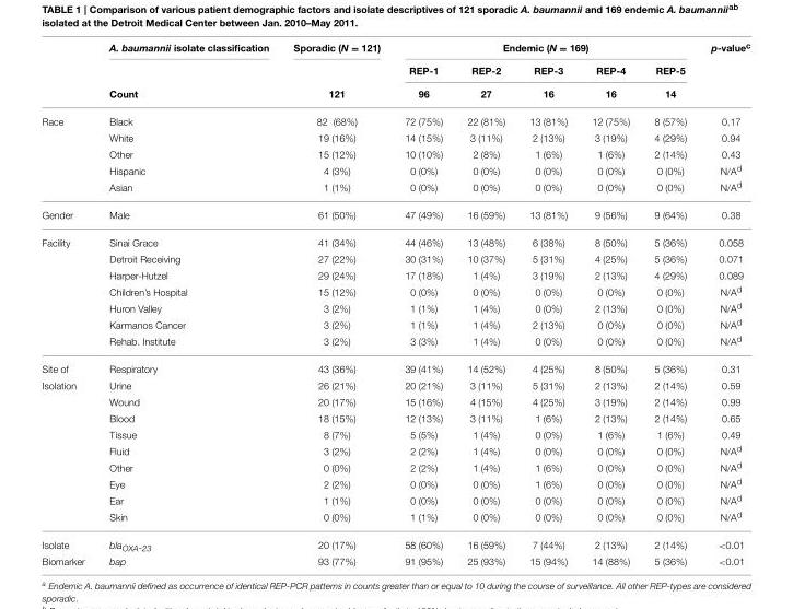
<table><thead><tr><td rowspan="3"></td><td rowspan="3">A. baumannii isolate classification Count</td><td rowspan="3">Sporadic (N = 121) 121</td><td colspan="5">Endemic (N = 169)</td><td rowspan="3">p-value<sup>c</sup></td></tr><tr><td rowspan="2">REP-1 96</td><td rowspan="2">REP-2 27</td><td rowspan="2">REP-3 16</td><td rowspan="2">REP-4 16</td><td rowspan="2">REP-5 14</td></tr><tr></tr></thead><tbody><tr><td rowspan="5">Race</td><td>Black</td><td>82 (68%)</td><td>72 (75%)</td><td>22 (81%)</td><td>13 (81%)</td><td>12 (75%)</td><td>8 (57%)</td><td>0.17</td></tr><tr><td>White</td><td>19 (16%)</td><td>14 (15%)</td><td>3 (11%)</td><td>2 (13%)</td><td>3 (19%)</td><td>4 (29%)</td><td>0.94</td></tr><tr><td>Other</td><td>15 (12%)</td><td>10 (10%)</td><td>2 (8%)</td><td>1 (6%)</td><td>1 (6%)</td><td>2 (14%)</td><td>0.43</td></tr><tr><td>Hispanic</td><td>4 (3%)</td><td>0 (0%)</td><td>0 (0%)</td><td>0 (0%)</td><td>0 (0%)</td><td>0 (0%)</td><td>N/A<sup>d</sup></td></tr><tr><td>Asian</td><td>1 (1%)</td><td>0 (0%)</td><td>0 (0%)</td><td>0 (0%)</td><td>0 (0%)</td><td>0 (0%)</td><td>N/A<sup>d</sup></td></tr><tr><td>Gender</td><td>Male</td><td>61 (50%)</td><td>47 (49%)</td><td>16 (59%)</td><td>13 (81%)</td><td>9 (56%)</td><td>9 (64%)</td><td>0.38</td></tr><tr><td rowspan="7">Facility</td><td>Sinai Grace</td><td>41 (34%)</td><td>44 (46%)</td><td>13 (48%)</td><td>6 (38%)</td><td>8 (50%)</td><td>5 (36%)</td><td>0.058</td></tr><tr><td>Detroit Receiving</td><td>27 (22%)</td><td>30 (31%)</td><td>10 (37%)</td><td>5 (31%)</td><td>4 (25%)</td><td>5 (36%)</td><td>0.071</td></tr><tr><td>Harper-Hutzel</td><td>29 (24%)</td><td>17 (18%)</td><td>1 (4%)</td><td>3 (19%)</td><td>2 (13%)</td><td>4 (29%)</td><td>0.089</td></tr><tr><td>Children’s Hospital</td><td>15 (12%)</td><td>0 (0%)</td><td>0 (0%)</td><td>0 (0%)</td><td>0 (0%)</td><td>0 (0%)</td><td>N/A<sup>d</sup></td></tr><tr><td>Huron Valley</td><td>3 (2%)</td><td>1 (1%)</td><td>1 (4%)</td><td>0 (0%)</td><td>2 (13%)</td><td>0 (0%)</td><td>N/A<sup>d</sup></td></tr><tr><td>Karmanos Cancer</td><td>3 (2%)</td><td>1 (1%)</td><td>1 (4%)</td><td>2 (13%)</td><td>0 (0%)</td><td>0 (0%)</td><td>N/A<sup>d</sup></td></tr><tr><td>Rehab. Institute</td><td>3 (2%)</td><td>3 (3%)</td><td>1 (4%)</td><td>0 (0%)</td><td>0 (0%)</td><td>0 (0%)</td><td>N/A<sup>d</sup></td></tr><tr><td>Site of</td><td>Respiratory</td><td>43 (36%)</td><td>39 (41%)</td><td>14 (52%)</td><td>4 (25%)</td><td>8 (50%)</td><td>5 (36%)</td><td>0.31</td></tr><tr><td rowspan="9">Isolation</td><td>Urine</td><td>26 (21%)</td><td>20 (21%)</td><td>3 (11%)</td><td>5 (31%)</td><td>2 (13%)</td><td>2 (14%)</td><td>0.59</td></tr><tr><td>Wound</td><td>20 (17%)</td><td>15 (16%)</td><td>4 (15%)</td><td>4 (25%)</td><td>3 (19%)</td><td>2 (14%)</td><td>0.99</td></tr><tr><td>Blood</td><td>18 (15%)</td><td>12 (13%)</td><td>3 (11%)</td><td>1 (6%)</td><td>2 (13%)</td><td>2 (14%)</td><td>0.65</td></tr><tr><td>Tissue</td><td>8 (7%)</td><td>5 (5%)</td><td>1 (4%)</td><td>0 (0%)</td><td>1 (6%)</td><td>1 (6%)</td><td>0.49</td></tr><tr><td>Fluid</td><td>3 (2%)</td><td>2 (2%)</td><td>1 (4%)</td><td>0 (0%)</td><td>0 (0%)</td><td>0 (0%)</td><td>N/A<sup>d</sup></td></tr><tr><td>Other</td><td>0 (0%)</td><td>2 (2%)</td><td>1 (4%)</td><td>1 (6%)</td><td>0 (0%)</td><td>0 (0%)</td><td>N/A<sup>d</sup></td></tr><tr><td>Eye</td><td>2 (2%)</td><td>0 (0%)</td><td>0 (0%)</td><td>1 (6%)</td><td>0 (0%)</td><td>0 (0%)</td><td>N/A<sup>d</sup></td></tr><tr><td>Ear</td><td>1 (1%)</td><td>0 (0%)</td><td>0 (0%)</td><td>0 (0%)</td><td>0 (0%)</td><td>0 (0%)</td><td>N/A<sup>d</sup></td></tr><tr><td>Skin</td><td>0 (0%)</td><td>1 (1%)</td><td>0 (0%)</td><td>0 (0%)</td><td>0 (0%)</td><td>0 (0%)</td><td>N/A<sup>d</sup></td></tr><tr><td>Isolate</td><td>bla<sub>OXA-23</sub></td><td>20 (17%)</td><td>58 (60%)</td><td>16 (59%)</td><td>7 (44%)</td><td>2 (13%)</td><td>2 (14%)</td><td>&lt;0.01</td></tr><tr><td>Biomarker</td><td>bap</td><td>93 (77%)</td><td>91 (95%)</td><td>25 (93%)</td><td>15 (94%)</td><td>14 (88%)</td><td>5 (36%)</td><td>&lt;0.01</td></tr></tbody></table>